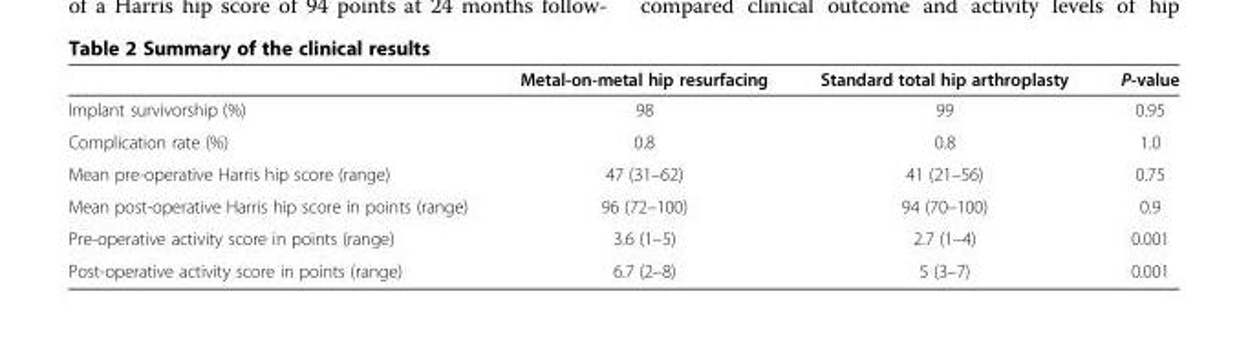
<table><thead><tr><td></td><td>Metal-on-metal hip resurfacing</td><td>Standard total hip arthroplasty</td><td>P-value</td></tr></thead><tbody><tr><td>Implant survivorship (%)</td><td>98</td><td>99</td><td>0.95</td></tr><tr><td>Complication rate (%)</td><td>0.8</td><td>0.8</td><td>1.0</td></tr><tr><td>Mean pre-operative Harris hip score (range)</td><td>47 (31–62)</td><td>41 (21–56)</td><td>0.75</td></tr><tr><td>Mean post-operative Harris hip score in points (range)</td><td>96 (72–100)</td><td>94 (70–100)</td><td>0.9</td></tr><tr><td>Pre-operative activity score in points (range)</td><td>3.6 (1–5)</td><td>2.7 (1–4)</td><td>0.001</td></tr><tr><td>Post-operative activity score in points (range)</td><td>6.7 (2–8)</td><td>5 (3–7)</td><td>0.001</td></tr></tbody></table>